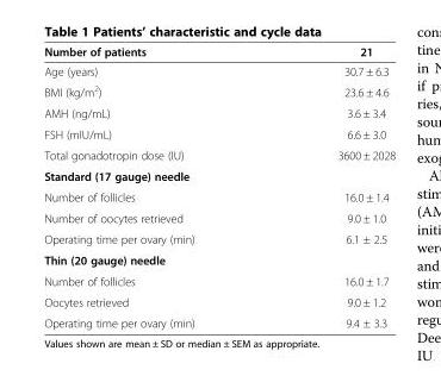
<table><thead><tr><td>Number of patients</td><td>21</td></tr></thead><tbody><tr><td>Age (years)</td><td>30.7 ± 6.3</td></tr><tr><td>BMI (kg/m<sup>2</sup>)</td><td>23.6 ± 4.6</td></tr><tr><td>AMH (ng/mL)</td><td>3.6 ± 3.4</td></tr><tr><td>FSH (mIU/mL)</td><td>6.6 ± 3.0</td></tr><tr><td>Total gonadotropin dose (IU)</td><td>3600 ± 2028</td></tr><tr><td colspan="2">Standard (17 gauge) needle</td></tr><tr><td>Number of follicles</td><td>16.0 ± 1.4</td></tr><tr><td>Number of oocytes retrieved</td><td>9.0 ± 1.0</td></tr><tr><td>Operating time per ovary (min)</td><td>6.1 ± 2.5</td></tr><tr><td colspan="2">Thin (20 gauge) needle</td></tr><tr><td>Number of follicles</td><td>16.0 ± 1.7</td></tr><tr><td>Oocytes retrieved</td><td>9.0 ± 1.2</td></tr><tr><td>Operating time per ovary (min)</td><td>9.4 ± 3.3</td></tr></tbody></table>